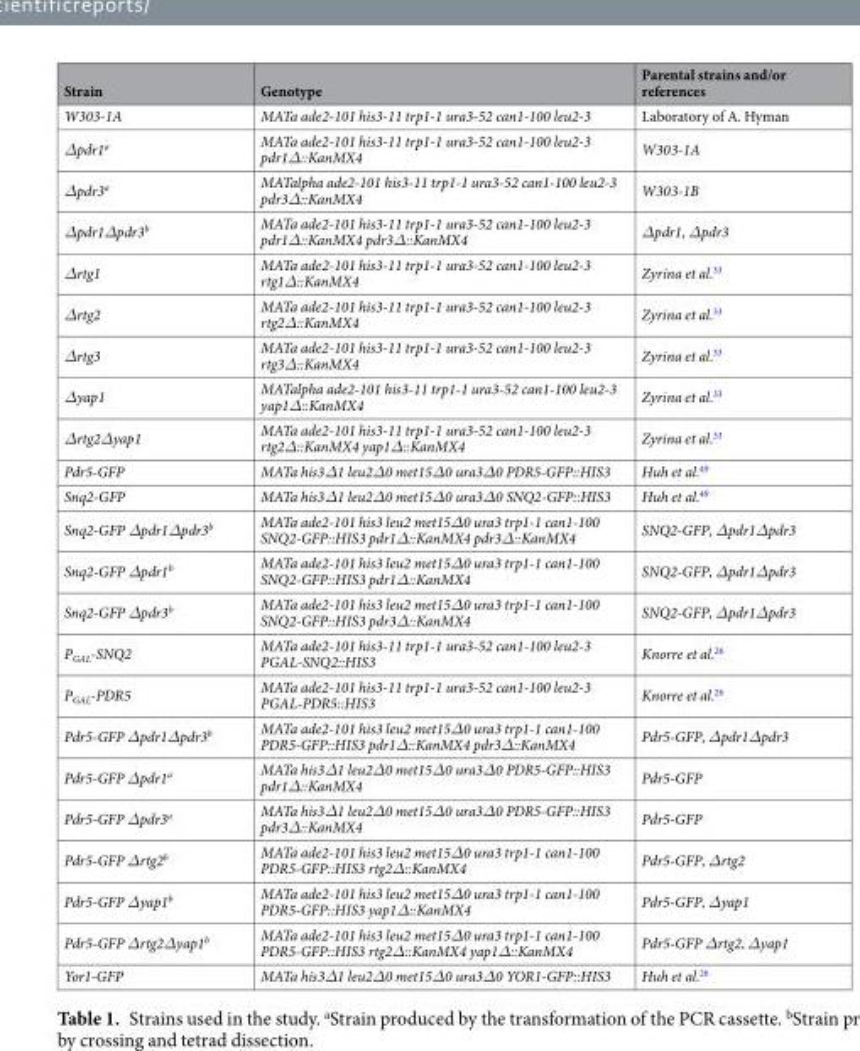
<table><thead><tr><td>Strain</td><td>Genotype</td><td>Parental strains and/or references</td></tr></thead><tbody><tr><td>W303-1A</td><td>MATa ade2-101 his3-11 trp1-1 ura3-52 can1-100 leu2-3</td><td>Laboratory of A. Hyman</td></tr><tr><td>Δpdr1<sup>a</sup></td><td>MATa ade2-101 his3-11 trp1-1 ura3-52 can1-100 leu2-3 pdr1Δ::KanMX4</td><td>W303-1A</td></tr><tr><td>Δpdr3<sup>a</sup></td><td>MATalpha ade2-101 his3-11 trp1-1 ura3-52 can1-100 leu2-3 pdr3Δ::KanMX4</td><td>W303-1B</td></tr><tr><td>Δpdr1Δpdr3<sup>b</sup></td><td>MATa ade2-101 his3-11 trp1-1 ura3-52 can1-100 leu2-3 pdr1Δ::KanMX4 pdr3Δ::KanMX4</td><td>Δpdr1, Δpdr3</td></tr><tr><td>Δrtg1</td><td>MATa ade2-101 his3-11 trp1-1 ura3-52 can1-100 leu2-3 rtg1Δ::KanMX4</td><td>Zyrina et al.<sup>33</sup></td></tr><tr><td>Δrtg2</td><td>MATa ade2-101 his3-11 trp1-1 ura3-52 can1-100 leu2-3 rtg2Δ::KanMX4</td><td>Zyrina et al.<sup>33</sup></td></tr><tr><td>Δrtg3</td><td>MATa ade2-101 his3-11 trp1-1 ura3-52 can1-100 leu2-3 rtg3Δ::KanMX4</td><td>Zyrina et al.<sup>33</sup></td></tr><tr><td>Δyap1</td><td>MATalpha ade2-101 his3-11 trp1-1 ura3-52 can1-100 leu2-3 yap1Δ::KanMX4</td><td>Zyrina et al.<sup>33</sup></td></tr><tr><td>Δrtg2Δyap1</td><td>MATa ade2-101 his3-11 trp1-1 ura3-52 can1-100 leu2-3 rtg2Δ::KanMX4 yap1Δ::KanMX4</td><td>Zyrina et al.<sup>33</sup></td></tr><tr><td>Pdr5-GFP</td><td>MATa his3Δ1 leu2Δ0 met15Δ0 ura3Δ0 PDR5-GFP::HIS3</td><td>Huh et al.<sup>49</sup></td></tr><tr><td>Snq2-GFP</td><td>MATa his3Δ1 leu2Δ0 met15Δ0 ura3Δ0 SNQ2-GFP::HIS3</td><td>Huh et al.<sup>49</sup></td></tr><tr><td>Snq2-GFP Δpdr1Δpdr3<sup>b</sup></td><td>MATa ade2-101 his3 leu2 met15Δ0 ura3 trp1-1 can1-100 SNQ2-GFP::HIS3 pdr1Δ::KanMX4 pdr3Δ::KanMX4</td><td>SNQ2-GFP, Δpdr1Δpdr3</td></tr><tr><td>Snq2-GFP Δpdr1<sup>b</sup></td><td>MATa ade2-101 his3 leu2 met15Δ0 ura3 trp1-1 can1-100 SNQ2-GFP::HIS3 pdr1Δ::KanMX4</td><td>SNQ2-GFP, Δpdr1Δpdr3</td></tr><tr><td>Snq2-GFP Δpdr3<sup>b</sup></td><td>MATa ade2-101 his3 leu2 met15Δ0 ura3 trp1-1 can1-100 SNQ2-GFP::HIS3 pdr3Δ::KanMX4</td><td>SNQ2-GFP, Δpdr1Δpdr3</td></tr><tr><td>P<sub>GAL</sub>-SNQ2</td><td>MATa ade2-101 his3-11 trp1-1 ura3-52 can1-100 leu2-3 PGAL-SNQ2::HIS3</td><td>Knorre et al.<sup>26</sup></td></tr><tr><td>P<sub>GAL</sub>-PDR5</td><td>MATa ade2-101 his3-11 trp1-1 ura3-52 can1-100 leu2-3 PGAL-PDR5::HIS3</td><td>Knorre et al.<sup>26</sup></td></tr><tr><td>Pdr5-GFP Δpdr1Δpdr3<sup>b</sup></td><td>MATa ade2-101 his3 leu2 met15Δ0 ura3 trp1-1 can1-100 PDR5-GFP::HIS3 pdr1Δ::KanMX4 pdr3Δ::KanMX4</td><td>Pdr5-GFP, Δpdr1Δpdr3</td></tr><tr><td>Pdr5-GFP Δpdr1<sup>a</sup></td><td>MATa his3Δ1 leu2Δ0 met15Δ0 ura3Δ0 PDR5-GFP::HIS3 pdr1Δ::KanMX4</td><td>Pdr5-GFP</td></tr><tr><td>Pdr5-GFP Δpdr3<sup>a</sup></td><td>MATa his3Δ1 leu2Δ0 met15Δ0 ura3Δ0 PDR5-GFP::HIS3 pdr3Δ::KanMX4</td><td>Pdr5-GFP</td></tr><tr><td>Pdr5-GFP Δrtg2<sup>b</sup></td><td>MATa ade2-101 his3 leu2 met15Δ0 ura3 trp1-1 can1-100 PDR5-GFP::HIS3 rtg2Δ::KanMX4</td><td>Pdr5-GFP, Δrtg2</td></tr><tr><td>Pdr5-GFP Δyap1<sup>b</sup></td><td>MATa ade2-101 his3 leu2 met15Δ0 ura3 trp1-1 can1-100 PDR5-GFP::HIS3 yap1Δ::KanMX4</td><td>Pdr5-GFP, Δyap1</td></tr><tr><td>Pdr5-GFP Δrtg2Δyap1<sup>b</sup></td><td>MATa ade2-101 his3 leu2 met15Δ0 ura3 trp1-1 can1-100 PDR5-GFP::HIS3 rtg2Δ::KanMX4 yap1Δ::KanMX4</td><td>Pdr5-GFP Δrtg2, Δyap1</td></tr><tr><td>Yor1-GFP</td><td>MATa his3Δ1 leu2Δ0 met15Δ0 ura3Δ0 YOR1-GFP::HIS3</td><td>Huh et al.<sup>26</sup></td></tr></tbody></table>